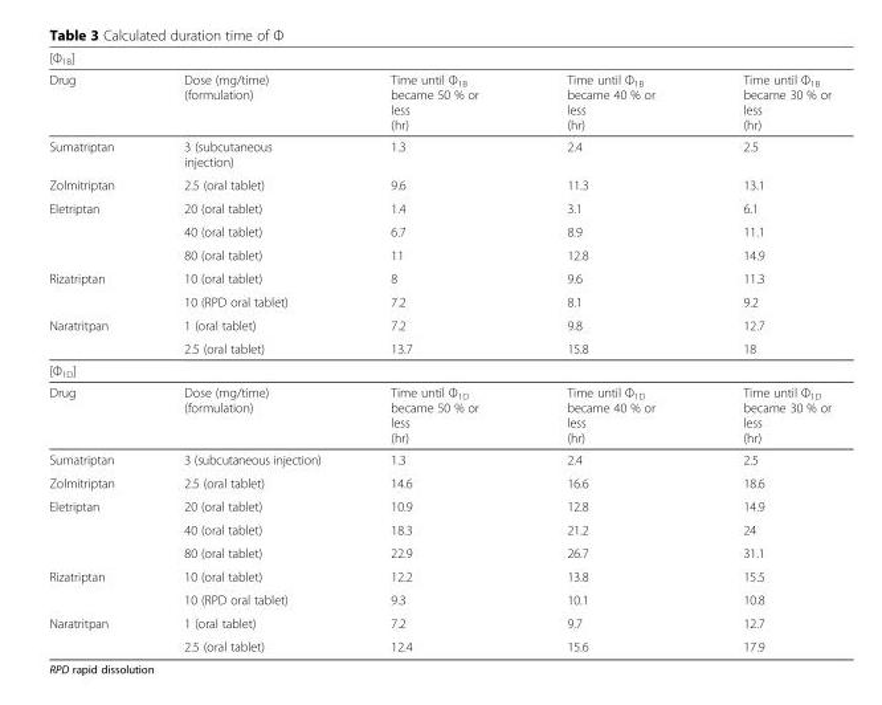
<table><tbody><tr><td colspan="5">[Φ<sub>1B</sub>]</td></tr><tr><td>Drug</td><td>Dose (mg/time) (formulation)</td><td>Time until Ф<sub>1B</sub> became 50 % or less (hr)</td><td>Time until Ф<sub>1B</sub> became 40 % or less (hr)</td><td>Time until Ф<sub>1B</sub> became 30 % or less (hr)</td></tr><tr><td>Sumatriptan</td><td>3 (subcutaneous injection)</td><td>1.3</td><td>2.4</td><td>2.5</td></tr><tr><td>Zolmitriptan</td><td>2.5 (oral tablet)</td><td>9.6</td><td>11.3</td><td>13.1</td></tr><tr><td rowspan="3">Eletriptan</td><td>20 (oral tablet)</td><td>1.4</td><td>3.1</td><td>6.1</td></tr><tr><td>40 (oral tablet)</td><td>6.7</td><td>8.9</td><td>11.1</td></tr><tr><td>80 (oral tablet)</td><td>11</td><td>12.8</td><td>14.9</td></tr><tr><td rowspan="2">Rizatriptan</td><td>10 (oral tablet)</td><td>8</td><td>9.6</td><td>11.3</td></tr><tr><td>10 (RPD oral tablet)</td><td>7.2</td><td>8.1</td><td>9.2</td></tr><tr><td rowspan="2">Naratritpan</td><td>1 (oral tablet)</td><td>7.2</td><td>9.8</td><td>12.7</td></tr><tr><td>2.5 (oral tablet)</td><td>13.7</td><td>15.8</td><td>18</td></tr><tr><td colspan="5">[Φ<sub>1D</sub>]</td></tr><tr><td>Drug</td><td>Dose (mg/time) (formulation)</td><td>Time until Ф<sub>1D</sub> became 50 % or less (hr)</td><td>Time until Ф<sub>1D</sub> became 40 % or less (hr)</td><td>Time until Ф<sub>1D</sub> became 30 % or less (hr)</td></tr><tr><td>Sumatriptan</td><td>3 (subcutaneous injection)</td><td>1.3</td><td>2.4</td><td>2.5</td></tr><tr><td>Zolmitriptan</td><td>2.5 (oral tablet)</td><td>14.6</td><td>16.6</td><td>18.6</td></tr><tr><td rowspan="3">Eletriptan</td><td>20 (oral tablet)</td><td>10.9</td><td>12.8</td><td>14.9</td></tr><tr><td>40 (oral tablet)</td><td>18.3</td><td>21.2</td><td>24</td></tr><tr><td>80 (oral tablet)</td><td>22.9</td><td>26.7</td><td>31.1</td></tr><tr><td rowspan="2">Rizatriptan</td><td>10 (oral tablet)</td><td>12.2</td><td>13.8</td><td>15.5</td></tr><tr><td>10 (RPD oral tablet)</td><td>9.3</td><td>10.1</td><td>10.8</td></tr><tr><td rowspan="2">Naratritpan</td><td>1 (oral tablet)</td><td>7.2</td><td>9.7</td><td>12.7</td></tr><tr><td>2.5 (oral tablet)</td><td>12.4</td><td>15.6</td><td>17.9</td></tr></tbody></table>